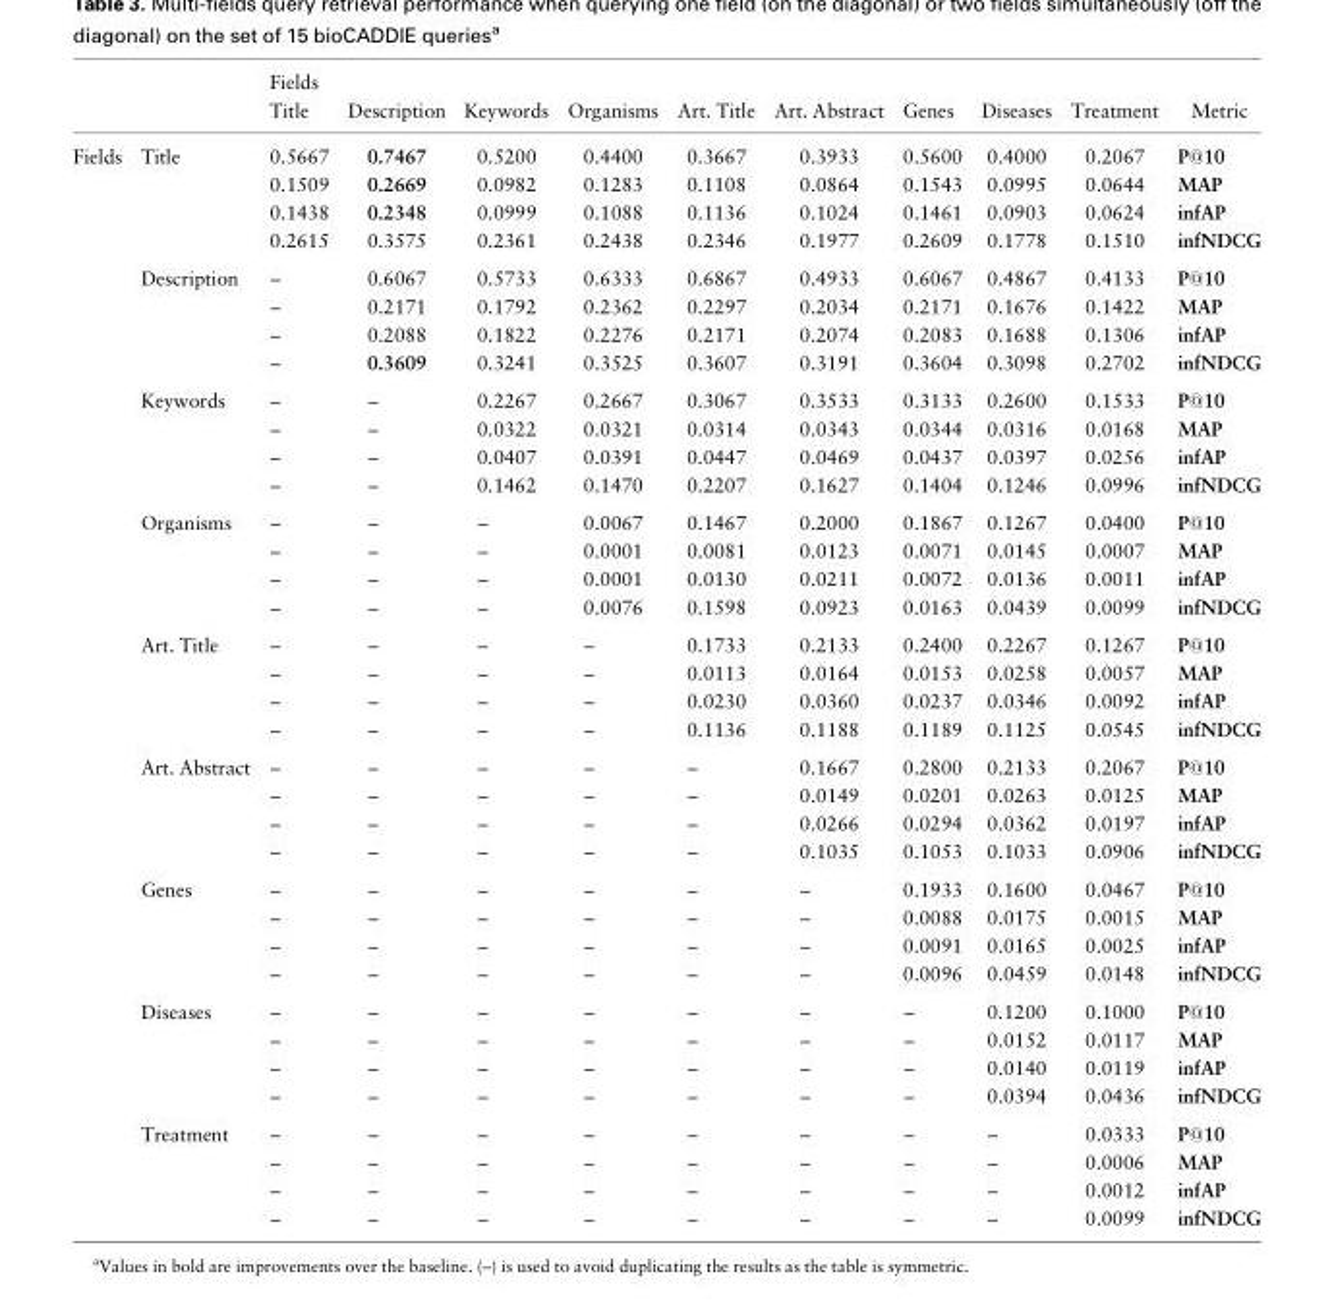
<table><thead><tr><td rowspan="2"></td><td rowspan="2"></td><td rowspan="2">Fields Title</td><td rowspan="2">Description</td><td rowspan="2">Keywords</td><td rowspan="2">Organisms</td><td rowspan="2">Art. Title</td><td rowspan="2">Art. Abstract</td><td rowspan="2">Genes</td><td rowspan="2">Diseases</td><td rowspan="2">Treatment</td><td rowspan="2">Metric</td></tr><tr></tr></thead><tbody><tr><td rowspan="36">Fields</td><td>Title</td><td>0.5667</td><td>0.7467</td><td>0.5200</td><td>0.4400</td><td>0.3667</td><td>0.3933</td><td>0.5600</td><td>0.4000</td><td>0.2067</td><td>P@10</td></tr><tr><td></td><td>0.1509</td><td>0.2669</td><td>0.0982</td><td>0.1283</td><td>0.1108</td><td>0.0864</td><td>0.1543</td><td>0.0995</td><td>0.0644</td><td>MAP</td></tr><tr><td></td><td>0.1438</td><td>0.2348</td><td>0.0999</td><td>0.1088</td><td>0.1136</td><td>0.1024</td><td>0.1461</td><td>0.0903</td><td>0.0624</td><td>infAP</td></tr><tr><td></td><td>0.2615</td><td>0.3575</td><td>0.2361</td><td>0.2438</td><td>0.2346</td><td>0.1977</td><td>0.2609</td><td>0.1778</td><td>0.1510</td><td>infNDCG</td></tr><tr><td>Description</td><td>–</td><td>0.6067</td><td>0.5733</td><td>0.6333</td><td>0.6867</td><td>0.4933</td><td>0.6067</td><td>0.4867</td><td>0.4133</td><td>P@10</td></tr><tr><td></td><td>–</td><td>0.2171</td><td>0.1792</td><td>0.2362</td><td>0.2297</td><td>0.2034</td><td>0.2171</td><td>0.1676</td><td>0.1422</td><td>MAP</td></tr><tr><td></td><td>–</td><td>0.2088</td><td>0.1822</td><td>0.2276</td><td>0.2171</td><td>0.2074</td><td>0.2083</td><td>0.1688</td><td>0.1306</td><td>infAP</td></tr><tr><td></td><td>–</td><td>0.3609</td><td>0.3241</td><td>0.3525</td><td>0.3607</td><td>0.3191</td><td>0.3604</td><td>0.3098</td><td>0.2702</td><td>infNDCG</td></tr><tr><td>Keywords</td><td>–</td><td>–</td><td>0.2267</td><td>0.2667</td><td>0.3067</td><td>0.3533</td><td>0.3133</td><td>0.2600</td><td>0.1533</td><td>P@10</td></tr><tr><td></td><td>–</td><td>–</td><td>0.0322</td><td>0.0321</td><td>0.0314</td><td>0.0343</td><td>0.0344</td><td>0.0316</td><td>0.0168</td><td>MAP</td></tr><tr><td></td><td>–</td><td>–</td><td>0.0407</td><td>0.0391</td><td>0.0447</td><td>0.0469</td><td>0.0437</td><td>0.0397</td><td>0.0256</td><td>infAP</td></tr><tr><td></td><td>–</td><td>–</td><td>0.1462</td><td>0.1470</td><td>0.2207</td><td>0.1627</td><td>0.1404</td><td>0.1246</td><td>0.0996</td><td>infNDCG</td></tr><tr><td>Organisms</td><td>–</td><td>–</td><td>–</td><td>0.0067</td><td>0.1467</td><td>0.2000</td><td>0.1867</td><td>0.1267</td><td>0.0400</td><td>P@10</td></tr><tr><td></td><td>–</td><td>–</td><td>–</td><td>0.0001</td><td>0.0081</td><td>0.0123</td><td>0.0071</td><td>0.0145</td><td>0.0007</td><td>MAP</td></tr><tr><td></td><td>–</td><td>–</td><td>–</td><td>0.0001</td><td>0.0130</td><td>0.0211</td><td>0.0072</td><td>0.0136</td><td>0.0011</td><td>infAP</td></tr><tr><td></td><td>–</td><td>–</td><td>–</td><td>0.0076</td><td>0.1598</td><td>0.0923</td><td>0.0163</td><td>0.0439</td><td>0.0099</td><td>infNDCG</td></tr><tr><td>Art. Title</td><td>–</td><td>–</td><td>–</td><td>–</td><td>0.1733</td><td>0.2133</td><td>0.2400</td><td>0.2267</td><td>0.1267</td><td>P@10</td></tr><tr><td></td><td>–</td><td>–</td><td>–</td><td>–</td><td>0.0113</td><td>0.0164</td><td>0.0153</td><td>0.0258</td><td>0.0057</td><td>MAP</td></tr><tr><td></td><td>–</td><td>–</td><td>–</td><td>–</td><td>0.0230</td><td>0.0360</td><td>0.0237</td><td>0.0346</td><td>0.0092</td><td>infAP</td></tr><tr><td></td><td>–</td><td>–</td><td>–</td><td>–</td><td>0.1136</td><td>0.1188</td><td>0.1189</td><td>0.1125</td><td>0.0545</td><td>infNDCG</td></tr><tr><td>Art. Abstract</td><td>–</td><td>–</td><td>–</td><td>–</td><td>–</td><td>0.1667</td><td>0.2800</td><td>0.2133</td><td>0.2067</td><td>P@10</td></tr><tr><td></td><td>–</td><td>–</td><td>–</td><td>–</td><td>–</td><td>0.0149</td><td>0.0201</td><td>0.0263</td><td>0.0125</td><td>MAP</td></tr><tr><td></td><td>–</td><td>–</td><td>–</td><td>–</td><td>–</td><td>0.0266</td><td>0.0294</td><td>0.0362</td><td>0.0197</td><td>infAP</td></tr><tr><td></td><td>–</td><td>–</td><td>–</td><td>–</td><td>–</td><td>0.1035</td><td>0.1053</td><td>0.1033</td><td>0.0906</td><td>infNDCG</td></tr><tr><td>Genes</td><td>–</td><td>–</td><td>–</td><td>–</td><td>–</td><td>–</td><td>0.1933</td><td>0.1600</td><td>0.0467</td><td>P@10</td></tr><tr><td></td><td>–</td><td>–</td><td>–</td><td>–</td><td>–</td><td>–</td><td>0.0088</td><td>0.0175</td><td>0.0015</td><td>MAP</td></tr><tr><td></td><td>–</td><td>–</td><td>–</td><td>–</td><td>–</td><td>–</td><td>0.0091</td><td>0.0165</td><td>0.0025</td><td>infAP</td></tr><tr><td></td><td>–</td><td>–</td><td>–</td><td>–</td><td>–</td><td>–</td><td>0.0096</td><td>0.0459</td><td>0.0148</td><td>infNDCG</td></tr><tr><td>Diseases</td><td>–</td><td>–</td><td>–</td><td>–</td><td>–</td><td>–</td><td>–</td><td>0.1200</td><td>0.1000</td><td>P@10</td></tr><tr><td></td><td>–</td><td>–</td><td>–</td><td>–</td><td>–</td><td>–</td><td>–</td><td>0.0152</td><td>0.0117</td><td>MAP</td></tr><tr><td></td><td>–</td><td>–</td><td>–</td><td>–</td><td>–</td><td>–</td><td>–</td><td>0.0140</td><td>0.0119</td><td>infAP</td></tr><tr><td></td><td>–</td><td>–</td><td>–</td><td>–</td><td>–</td><td>–</td><td>–</td><td>0.0394</td><td>0.0436</td><td>infNDCG</td></tr><tr><td>Treatment</td><td>–</td><td>–</td><td>–</td><td>–</td><td>–</td><td>–</td><td>–</td><td>–</td><td>0.0333</td><td>P@10</td></tr><tr><td></td><td>–</td><td>–</td><td>–</td><td>–</td><td>–</td><td>–</td><td>–</td><td>–</td><td>0.0006</td><td>MAP</td></tr><tr><td></td><td>–</td><td>–</td><td>–</td><td>–</td><td>–</td><td>–</td><td>–</td><td>–</td><td>0.0012</td><td>infAP</td></tr><tr><td></td><td>–</td><td>–</td><td>–</td><td>–</td><td>–</td><td>–</td><td>–</td><td>–</td><td>0.0099</td><td>infNDCG</td></tr></tbody></table>